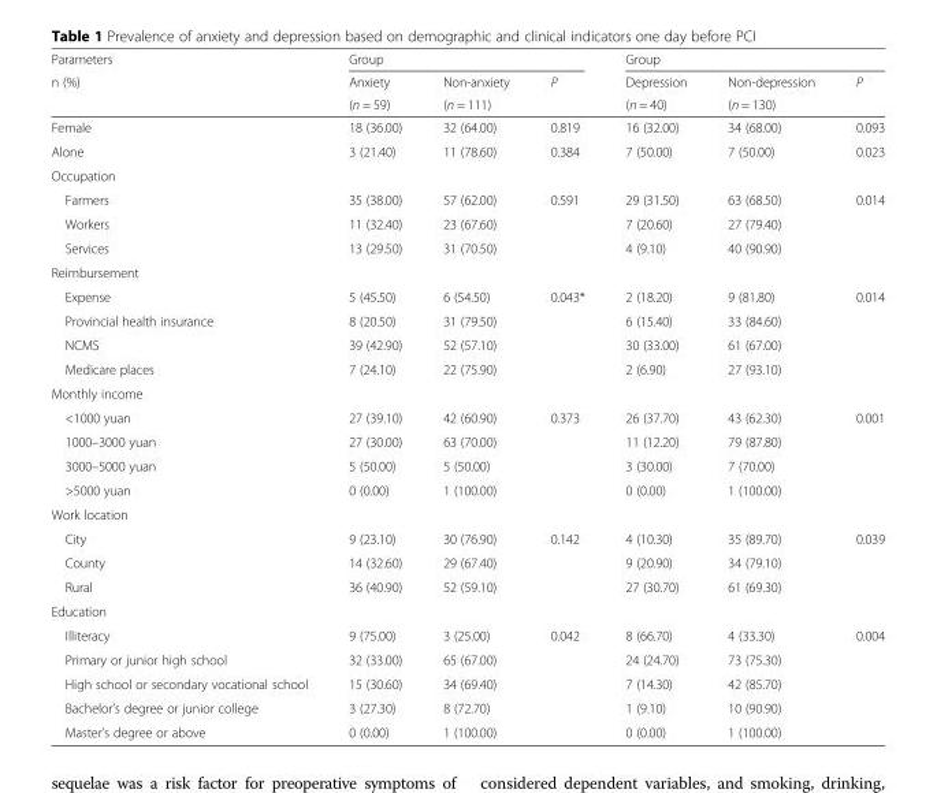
<table><thead><tr><td rowspan="3">Parameters n (%)</td><td colspan="3">Group</td><td colspan="3">Group</td></tr><tr><td rowspan="2">Anxiety (n = 59)</td><td rowspan="2">Non-anxiety (n = 111)</td><td rowspan="2">P</td><td rowspan="2">Depression (n = 40)</td><td rowspan="2">Non-depression (n = 130)</td><td rowspan="2">P</td></tr><tr></tr></thead><tbody><tr><td>Female</td><td>18 (36.00)</td><td>32 (64.00)</td><td>0.819</td><td>16 (32.00)</td><td>34 (68.00)</td><td>0.093</td></tr><tr><td>Alone</td><td>3 (21.40)</td><td>11 (78.60)</td><td>0.384</td><td>7 (50.00)</td><td>7 (50.00)</td><td>0.023</td></tr><tr><td colspan="7">Occupation</td></tr><tr><td>Farmers</td><td>35 (38.00)</td><td>57 (62.00)</td><td>0.591</td><td>29 (31.50)</td><td>63 (68.50)</td><td>0.014</td></tr><tr><td>Workers</td><td>11 (32.40)</td><td>23 (67.60)</td><td></td><td>7 (20.60)</td><td>27 (79.40)</td><td></td></tr><tr><td>Services</td><td>13 (29.50)</td><td>31 (70.50)</td><td></td><td>4 (9.10)</td><td>40 (90.90)</td><td></td></tr><tr><td colspan="7">Reimbursement</td></tr><tr><td>Expense</td><td>5 (45.50)</td><td>6 (54.50)</td><td>0.043*</td><td>2 (18.20)</td><td>9 (81.80)</td><td>0.014</td></tr><tr><td>Provincial health insurance</td><td>8 (20.50)</td><td>31 (79.50)</td><td></td><td>6 (15.40)</td><td>33 (84.60)</td><td></td></tr><tr><td>NCMS</td><td>39 (42.90)</td><td>52 (57.10)</td><td></td><td>30 (33.00)</td><td>61 (67.00)</td><td></td></tr><tr><td>Medicare places</td><td>7 (24.10)</td><td>22 (75.90)</td><td></td><td>2 (6.90)</td><td>27 (93.10)</td><td></td></tr><tr><td colspan="7">Monthly income</td></tr><tr><td>&lt;1000 yuan</td><td>27 (39.10)</td><td>42 (60.90)</td><td>0.373</td><td>26 (37.70)</td><td>43 (62.30)</td><td>0.001</td></tr><tr><td>1000–3000 yuan</td><td>27 (30.00)</td><td>63 (70.00)</td><td></td><td>11 (12.20)</td><td>79 (87.80)</td><td></td></tr><tr><td>3000–5000 yuan</td><td>5 (50.00)</td><td>5 (50.00)</td><td></td><td>3 (30.00)</td><td>7 (70.00)</td><td></td></tr><tr><td>&gt;5000 yuan</td><td>0 (0.00)</td><td>1 (100.00)</td><td></td><td>0 (0.00)</td><td>1 (100.00)</td><td></td></tr><tr><td colspan="7">Work location</td></tr><tr><td>City</td><td>9 (23.10)</td><td>30 (76.90)</td><td>0.142</td><td>4 (10.30)</td><td>35 (89.70)</td><td>0.039</td></tr><tr><td>County</td><td>14 (32.60)</td><td>29 (67.40)</td><td></td><td>9 (20.90)</td><td>34 (79.10)</td><td></td></tr><tr><td>Rural</td><td>36 (40.90)</td><td>52 (59.10)</td><td></td><td>27 (30.70)</td><td>61 (69.30)</td><td></td></tr><tr><td colspan="7">Education</td></tr><tr><td>Illiteracy</td><td>9 (75.00)</td><td>3 (25.00)</td><td>0.042</td><td>8 (66.70)</td><td>4 (33.30)</td><td>0.004</td></tr><tr><td>Primary or junior high school</td><td>32 (33.00)</td><td>65 (67.00)</td><td></td><td>24 (24.70)</td><td>73 (75.30)</td><td></td></tr><tr><td>High school or secondary vocational school</td><td>15 (30.60)</td><td>34 (69.40)</td><td></td><td>7 (14.30)</td><td>42 (85.70)</td><td></td></tr><tr><td>Bachelor’s degree or junior college</td><td>3 (27.30)</td><td>8 (72.70)</td><td></td><td>1 (9.10)</td><td>10 (90.90)</td><td></td></tr><tr><td>Master’s degree or above</td><td>0 (0.00)</td><td>1 (100.00)</td><td></td><td>0 (0.00)</td><td>1 (100.00)</td><td></td></tr></tbody></table>